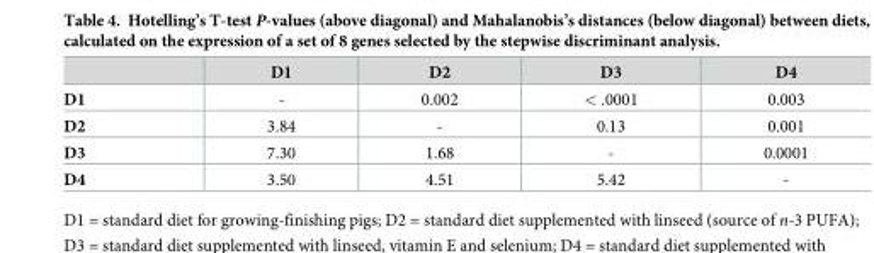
<table><thead><tr><td></td><td>D1</td><td>D2</td><td>D3</td><td>D4</td></tr></thead><tbody><tr><td>D1</td><td>-</td><td>0.002</td><td>&lt; .0001</td><td>0.003</td></tr><tr><td>D2</td><td>3.84</td><td>-</td><td>0.13</td><td>0.001</td></tr><tr><td>D3</td><td>7.30</td><td>1.68</td><td>-</td><td>0.0001</td></tr><tr><td>D4</td><td>3.50</td><td>4.51</td><td>5.42</td><td>-</td></tr></tbody></table>